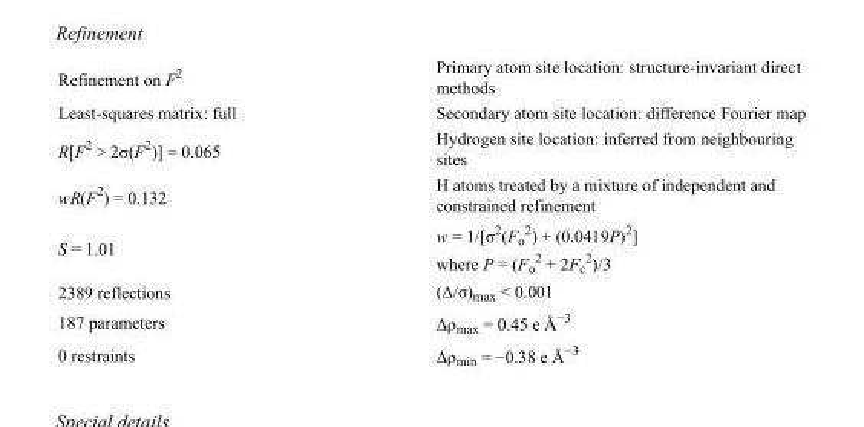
<table><tbody><tr><td>Refinement on F<sup>2</sup></td><td>Primary atom site location: structure-invariant direct methods</td></tr><tr><td>Least-squares matrix: full</td><td>Secondary atom site location: difference Fourier map</td></tr><tr><td>R[F<sup>2</sup> &gt; 2σ(F<sup>2</sup>)] = 0.065</td><td>Hydrogen site location: inferred from neighbouring sites</td></tr><tr><td>wR(F<sup>2</sup>) = 0.132</td><td>H atoms treated by a mixture of independent and constrained refinement</td></tr><tr><td>S = 1.01</td><td>w = 1/[σ<sup>2</sup>(F<sub>o</sub> <sup>2</sup>) + (0.0419P)<sup>2</sup>] where P = (F<sub>o</sub> <sup>2</sup> + 2F<sub>c</sub> <sup>2</sup>)/3</td></tr><tr><td>2389 reflections</td><td>(Δ/σ)<sub>max</sub> &lt; 0.001</td></tr><tr><td>187 parameters</td><td>Δρ<sub>max</sub> = 0.45 e Å<sup>−3</sup></td></tr><tr><td>0 restraints</td><td>Δρ<sub>min</sub> = −0.38 e Å<sup>−3</sup></td></tr></tbody></table>